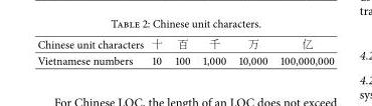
<table><tbody><tr><td>Chinese unit characters</td><td>十</td><td>百</td><td>千</td><td>万</td><td>亿</td></tr><tr><td>Vietnamese numbers</td><td>10</td><td>100</td><td>1,000</td><td>10,000</td><td>100,000,000</td></tr></tbody></table>